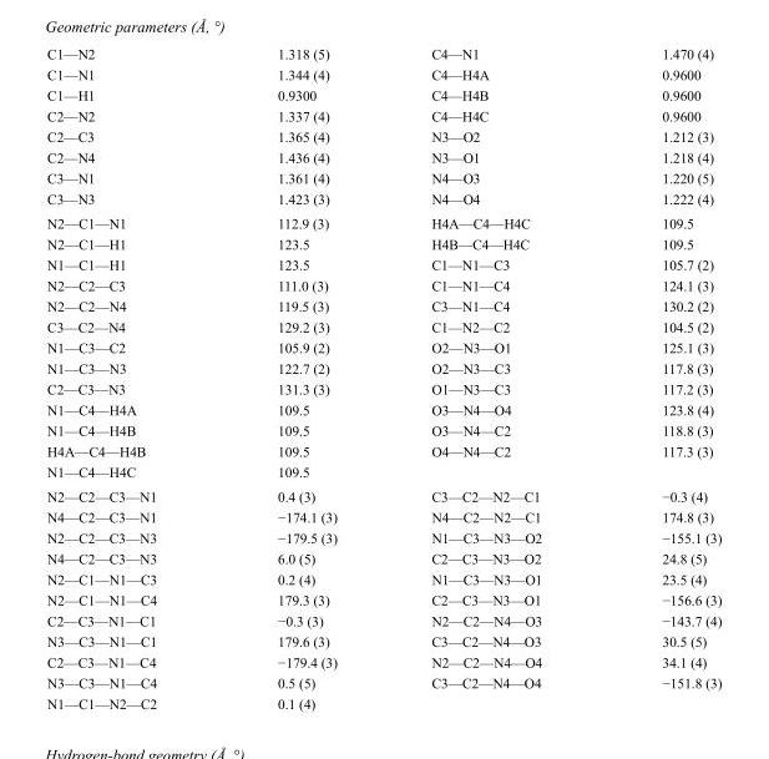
<table><tbody><tr><td>C1—N2</td><td>1.318 (5)</td><td>C4—N1</td><td>1.470 (4)</td></tr><tr><td>C1—N1</td><td>1.344 (4)</td><td>C4—H4A</td><td>0.9600</td></tr><tr><td>C1—H1</td><td>0.9300</td><td>C4—H4B</td><td>0.9600</td></tr><tr><td>C2—N2</td><td>1.337 (4)</td><td>C4—H4C</td><td>0.9600</td></tr><tr><td>C2—C3</td><td>1.365 (4)</td><td>N3—O2</td><td>1.212 (3)</td></tr><tr><td>C2—N4</td><td>1.436 (4)</td><td>N3—O1</td><td>1.218 (4)</td></tr><tr><td>C3—N1</td><td>1.361 (4)</td><td>N4—O3</td><td>1.220 (5)</td></tr><tr><td>C3—N3</td><td>1.423 (3)</td><td>N4—O4</td><td>1.222 (4)</td></tr><tr><td>N2—C1—N1</td><td>112.9 (3)</td><td>H4A—C4—H4C</td><td>109.5</td></tr><tr><td>N2—C1—H1</td><td>123.5</td><td>H4B—C4—H4C</td><td>109.5</td></tr><tr><td>N1—C1—H1</td><td>123.5</td><td>C1—N1—C3</td><td>105.7 (2)</td></tr><tr><td>N2—C2—C3</td><td>111.0 (3)</td><td>C1—N1—C4</td><td>124.1 (3)</td></tr><tr><td>N2—C2—N4</td><td>119.5 (3)</td><td>C3—N1—C4</td><td>130.2 (2)</td></tr><tr><td>C3—C2—N4</td><td>129.2 (3)</td><td>C1—N2—C2</td><td>104.5 (2)</td></tr><tr><td>N1—C3—C2</td><td>105.9 (2)</td><td>O2—N3—O1</td><td>125.1 (3)</td></tr><tr><td>N1—C3—N3</td><td>122.7 (2)</td><td>O2—N3—C3</td><td>117.8 (3)</td></tr><tr><td>C2—C3—N3</td><td>131.3 (3)</td><td>O1—N3—C3</td><td>117.2 (3)</td></tr><tr><td>N1—C4—H4A</td><td>109.5</td><td>O3—N4—O4</td><td>123.8 (4)</td></tr><tr><td>N1—C4—H4B</td><td>109.5</td><td>O3—N4—C2</td><td>118.8 (3)</td></tr><tr><td>H4A—C4—H4B</td><td>109.5</td><td>O4—N4—C2</td><td>117.3 (3)</td></tr><tr><td>N1—C4—H4C</td><td>109.5</td><td></td><td></td></tr><tr><td>N2—C2—C3—N1</td><td>0.4 (3)</td><td>C3—C2—N2—C1</td><td>−0.3 (4)</td></tr><tr><td>N4—C2—C3—N1</td><td>−174.1 (3)</td><td>N4—C2—N2—C1</td><td>174.8 (3)</td></tr><tr><td>N2—C2—C3—N3</td><td>−179.5 (3)</td><td>N1—C3—N3—O2</td><td>−155.1 (3)</td></tr><tr><td>N4—C2—C3—N3</td><td>6.0 (5)</td><td>C2—C3—N3—O2</td><td>24.8 (5)</td></tr><tr><td>N2—C1—N1—C3</td><td>0.2 (4)</td><td>N1—C3—N3—O1</td><td>23.5 (4)</td></tr><tr><td>N2—C1—N1—C4</td><td>179.3 (3)</td><td>C2—C3—N3—O1</td><td>−156.6 (3)</td></tr><tr><td>C2—C3—N1—C1</td><td>−0.3 (3)</td><td>N2—C2—N4—O3</td><td>−143.7 (4)</td></tr><tr><td>N3—C3—N1—C1</td><td>179.6 (3)</td><td>C3—C2—N4—O3</td><td>30.5 (5)</td></tr><tr><td>C2—C3—N1—C4</td><td>−179.4 (3)</td><td>N2—C2—N4—O4</td><td>34.1 (4)</td></tr><tr><td>N3—C3—N1—C4</td><td>0.5 (5)</td><td>C3—C2—N4—O4</td><td>−151.8 (3)</td></tr><tr><td>N1—C1—N2—C2</td><td>0.1 (4)</td><td></td><td></td></tr></tbody></table>